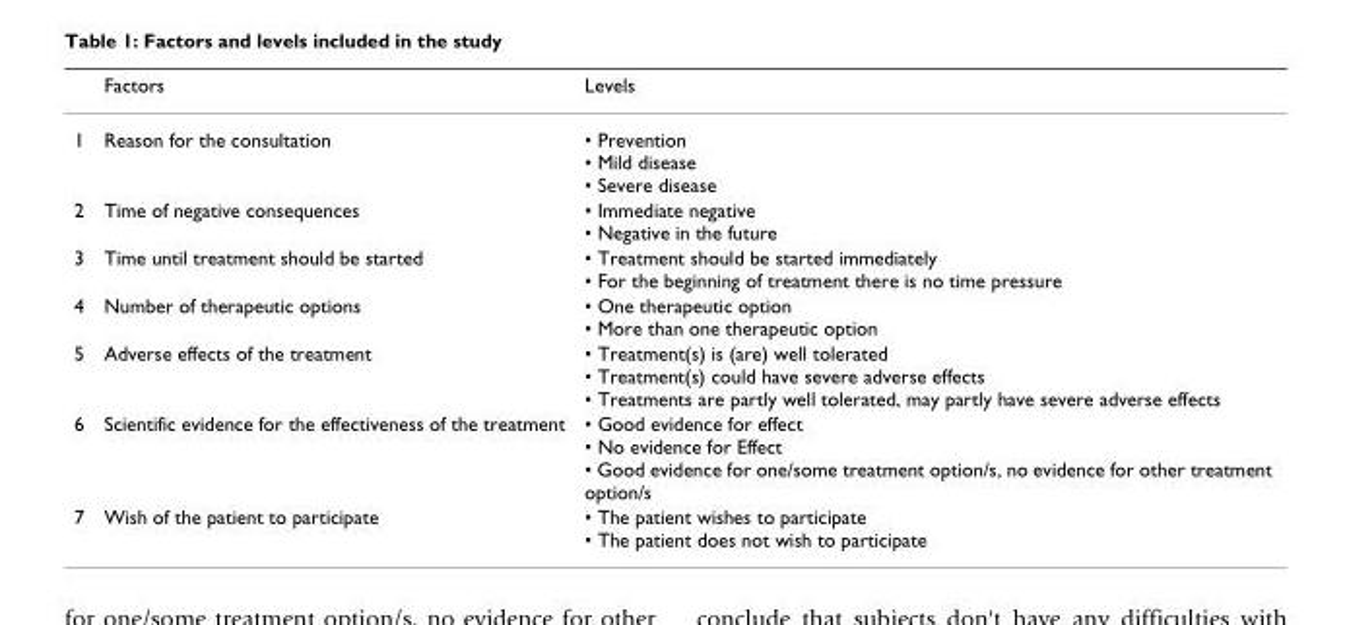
<table><thead><tr><td></td><td>Factors</td><td>Levels</td></tr></thead><tbody><tr><td>1</td><td>Reason for the consultation</td><td>• Prevention • Mild disease • Severe disease</td></tr><tr><td>2</td><td>Time of negative consequences</td><td>• Immediate negative • Negative in the future</td></tr><tr><td>3</td><td>Time until treatment should be started</td><td>• Treatment should be started immediately • For the beginning of treatment there is no time pressure</td></tr><tr><td>4</td><td>Number of therapeutic options</td><td>• One therapeutic option • More than one therapeutic option</td></tr><tr><td>5</td><td>Adverse effects of the treatment</td><td>• Treatment(s) is (are) well tolerated • Treatment(s) could have severe adverse effects • Treatments are partly well tolerated, may partly have severe adverse effects</td></tr><tr><td>6</td><td>Scientific evidence for the effectiveness of the treatment</td><td>• Good evidence for effect • No evidence for Effect • Good evidence for one/some treatment option/s, no evidence for other treatment option/s</td></tr><tr><td>7</td><td>Wish of the patient to participate</td><td>• The patient wishes to participate • The patient does not wish to participate</td></tr></tbody></table>